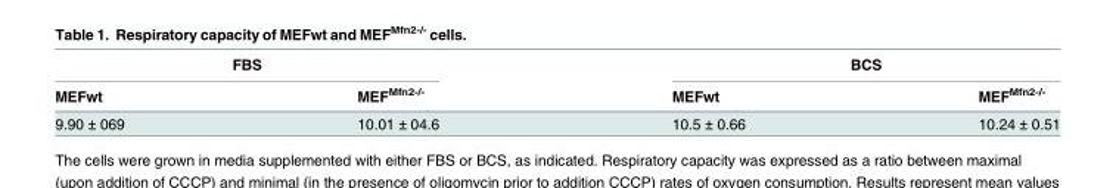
<table><thead><tr><td colspan="2">FBS</td><td colspan="2">BCS</td></tr><tr><td>MEFwt</td><td>MEF<sup>Mfn2-/-</sup></td><td>MEFwt</td><td>MEF<sup>Mfn2-/-</sup></td></tr></thead><tbody><tr><td>9.90 ± 069</td><td>10.01 ± 04.6</td><td>10.5 ± 0.66</td><td>10.24 ± 0.51</td></tr></tbody></table>